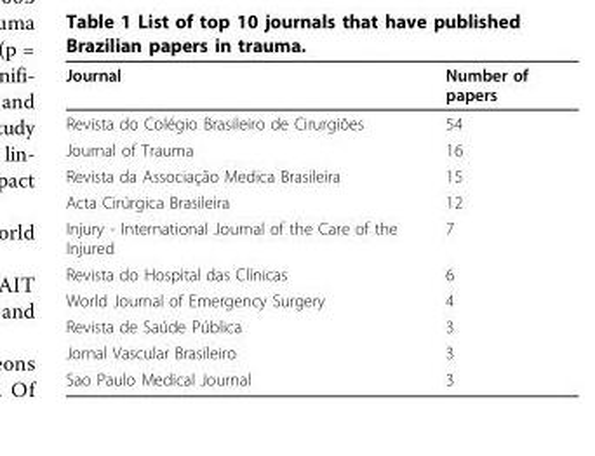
<table><thead><tr><td>Journal</td><td>Number of papers</td></tr></thead><tbody><tr><td>Revista do Colégio Brasileiro de Cirurgiões</td><td>54</td></tr><tr><td>Journal of Trauma</td><td>16</td></tr><tr><td>Revista da Associação Medica Brasileira</td><td>15</td></tr><tr><td>Acta Cirúrgica Brasileira</td><td>12</td></tr><tr><td>Injury - International Journal of the Care of the Injured</td><td>7</td></tr><tr><td>Revista do Hospital das Clínicas</td><td>6</td></tr><tr><td>World Journal of Emergency Surgery</td><td>4</td></tr><tr><td>Revista de Saúde Pública</td><td>3</td></tr><tr><td>Jornal Vascular Brasileiro</td><td>3</td></tr><tr><td>Sao Paulo Medical Journal</td><td>3</td></tr></tbody></table>